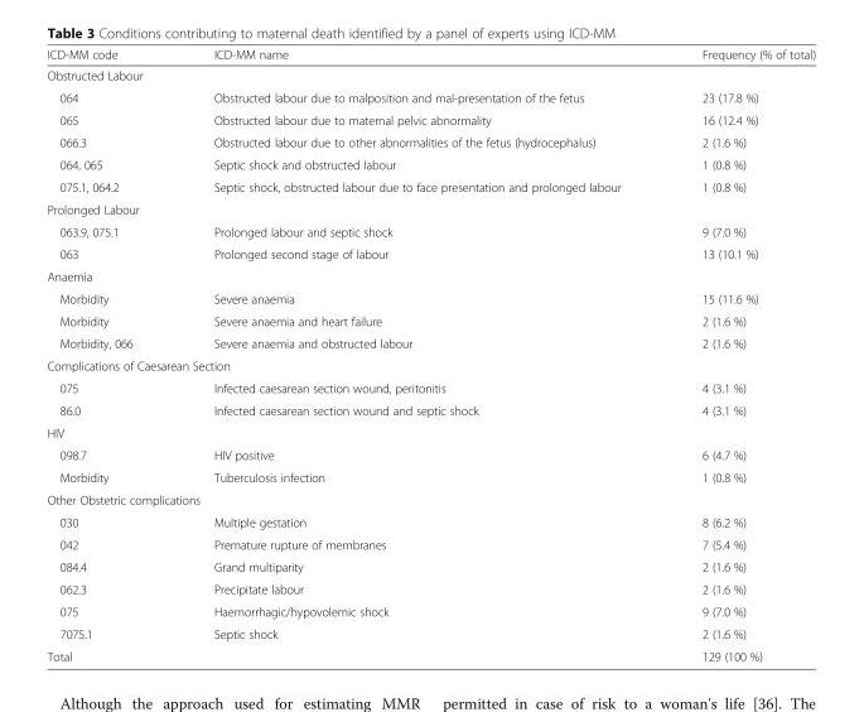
<table><thead><tr><td>ICD-MM code</td><td>ICD-MM name</td><td>Frequency (% of total)</td></tr></thead><tbody><tr><td colspan="3">Obstructed Labour</td></tr><tr><td>064</td><td>Obstructed labour due to malposition and mal-presentation of the fetus</td><td>23 (17.8 %)</td></tr><tr><td>065</td><td>Obstructed labour due to maternal pelvic abnormality</td><td>16 (12.4 %)</td></tr><tr><td>066.3</td><td>Obstructed labour due to other abnormalities of the fetus (hydrocephalus)</td><td>2 (1.6 %)</td></tr><tr><td>064, 065</td><td>Septic shock and obstructed labour</td><td>1 (0.8 %)</td></tr><tr><td>075.1, 064.2</td><td>Septic shock, obstructed labour due to face presentation and prolonged labour</td><td>1 (0.8 %)</td></tr><tr><td colspan="3">Prolonged Labour</td></tr><tr><td>063.9, 075.1</td><td>Prolonged labour and septic shock</td><td>9 (7.0 %)</td></tr><tr><td>063</td><td>Prolonged second stage of labour</td><td>13 (10.1 %)</td></tr><tr><td colspan="3">Anaemia</td></tr><tr><td>Morbidity</td><td>Severe anaemia</td><td>15 (11.6 %)</td></tr><tr><td>Morbidity</td><td>Severe anaemia and heart failure</td><td>2 (1.6 %)</td></tr><tr><td>Morbidity, 066</td><td>Severe anaemia and obstructed labour</td><td>2 (1.6 %)</td></tr><tr><td colspan="3">Complications of Caesarean Section</td></tr><tr><td>075</td><td>Infected caesarean section wound, peritonitis</td><td>4 (3.1 %)</td></tr><tr><td>86.0</td><td>Infected caesarean section wound and septic shock</td><td>4 (3.1 %)</td></tr><tr><td colspan="3">HIV</td></tr><tr><td>098.7</td><td>HIV positive</td><td>6 (4.7 %)</td></tr><tr><td>Morbidity</td><td>Tuberculosis infection</td><td>1 (0.8 %)</td></tr><tr><td colspan="3">Other Obstetric complications</td></tr><tr><td>030</td><td>Multiple gestation</td><td>8 (6.2 %)</td></tr><tr><td>042</td><td>Premature rupture of membranes</td><td>7 (5.4 %)</td></tr><tr><td>084.4</td><td>Grand multiparity</td><td>2 (1.6 %)</td></tr><tr><td>062.3</td><td>Precipitate labour</td><td>2 (1.6 %)</td></tr><tr><td>075</td><td>Haemorrhagic/hypovolemic shock</td><td>9 (7.0 %)</td></tr><tr><td>7075.1</td><td>Septic shock</td><td>2 (1.6 %)</td></tr><tr><td>Total</td><td></td><td>129 (100 %)</td></tr></tbody></table>